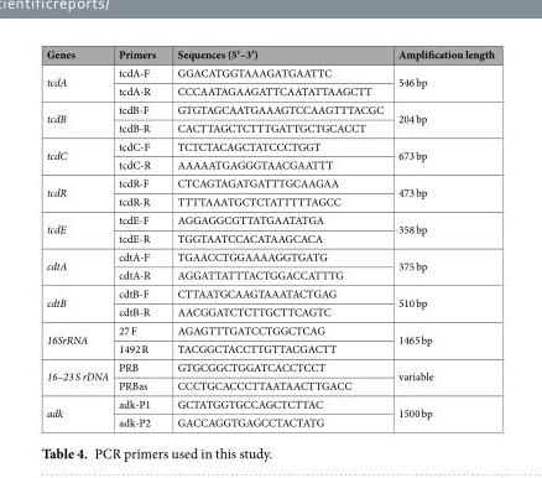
<table><thead><tr><td>Genes</td><td>Primers</td><td>Sequences (5′–3′)</td><td>Amplification length</td></tr></thead><tbody><tr><td rowspan="2">tcdA</td><td>tcdA-F</td><td>GGACATGGTAAAGATGAATTC</td><td rowspan="2">546 bp</td></tr><tr><td>tcdA-R</td><td>CCCAATAGAAGATTCAATATTAAGCTT</td></tr><tr><td rowspan="2">tcdB</td><td>tcdB-F</td><td>GTGTAGCAATGAAAGTCCAAGTTTACGC</td><td rowspan="2">204 bp</td></tr><tr><td>tcdB-R</td><td>CACTTAGCTCTTTGATTGCTGCACCT</td></tr><tr><td rowspan="2">tcdC</td><td>tcdC-F</td><td>TCTCTACAGCTATCCCTGGT</td><td rowspan="2">673 bp</td></tr><tr><td>tcdC-R</td><td>AAAAATGAGGGTAACGAATTT</td></tr><tr><td rowspan="2">tcdR</td><td>tcdR-F</td><td>CTCAGTAGATGATTTGCAAGAA</td><td rowspan="2">473 bp</td></tr><tr><td>tcdR-R</td><td>TTTTAAATGCTCTATTTTTAGCC</td></tr><tr><td rowspan="2">tcdE</td><td>tcdE-F</td><td>AGGAGGCGTTATGAATATGA</td><td rowspan="2">358 bp</td></tr><tr><td>tcdE-R</td><td>TGGTAATCCACATAAGCACA</td></tr><tr><td rowspan="2">cdtA</td><td>cdtA-F</td><td>TGAACCTGGAAAAGGTGATG</td><td rowspan="2">375 bp</td></tr><tr><td>cdtA-R</td><td>AGGATTATTTACTGGACCATTTG</td></tr><tr><td rowspan="2">cdtB</td><td>cdtB-F</td><td>CTTAATGCAAGTAAATACTGAG</td><td rowspan="2">510 bp</td></tr><tr><td>cdtB-R</td><td>AACGGATCTCTTGCTTCAGTC</td></tr><tr><td rowspan="2">16SrRNA</td><td>27 F</td><td>AGAGTTTGATCCTGGCTCAG</td><td rowspan="2">1465 bp</td></tr><tr><td>1492 R</td><td>TACGGCTACCTTGTTACGACTT</td></tr><tr><td rowspan="2">16–23 S rDNA</td><td>PRB</td><td>GTGCGGCTGGATCACCTCCT</td><td rowspan="2">variable</td></tr><tr><td>PRBas</td><td>CCCTGCACCCTTAATAACTTGACC</td></tr><tr><td rowspan="2">adk</td><td>adk-P1</td><td>GCTATGGTGCCAGCTCTTAC</td><td rowspan="2">1500 bp</td></tr><tr><td>adk-P2</td><td>GACCAGGTGAGCCTACTATG</td></tr></tbody></table>